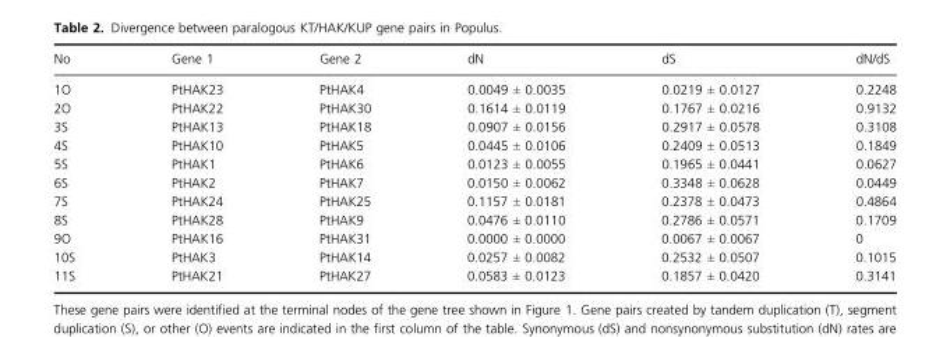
<table><thead><tr><td>No</td><td>Gene 1</td><td>Gene 2</td><td>dN</td><td>dS</td><td>dN/dS</td></tr></thead><tbody><tr><td>1O</td><td>PtHAK23</td><td>PtHAK4</td><td>0.0049 ± 0.0035</td><td>0.0219 ± 0.0127</td><td>0.2248</td></tr><tr><td>2O</td><td>PtHAK22</td><td>PtHAK30</td><td>0.1614 ± 0.0119</td><td>0.1767 ± 0.0216</td><td>0.9132</td></tr><tr><td>3S</td><td>PtHAK13</td><td>PtHAK18</td><td>0.0907 ± 0.0156</td><td>0.2917 ± 0.0578</td><td>0.3108</td></tr><tr><td>4S</td><td>PtHAK10</td><td>PtHAK5</td><td>0.0445 ± 0.0106</td><td>0.2409 ± 0.0513</td><td>0.1849</td></tr><tr><td>5S</td><td>PtHAK1</td><td>PtHAK6</td><td>0.0123 ± 0.0055</td><td>0.1965 ± 0.0441</td><td>0.0627</td></tr><tr><td>6S</td><td>PtHAK2</td><td>PtHAK7</td><td>0.0150 ± 0.0062</td><td>0.3348 ± 0.0628</td><td>0.0449</td></tr><tr><td>7S</td><td>PtHAK24</td><td>PtHAK25</td><td>0.1157 ± 0.0181</td><td>0.2378 ± 0.0473</td><td>0.4864</td></tr><tr><td>8S</td><td>PtHAK28</td><td>PtHAK9</td><td>0.0476 ± 0.0110</td><td>0.2786 ± 0.0571</td><td>0.1709</td></tr><tr><td>9O</td><td>PtHAK16</td><td>PtHAK31</td><td>0.0000 ± 0.0000</td><td>0.0067 ± 0.0067</td><td>0</td></tr><tr><td>10S</td><td>PtHAK3</td><td>PtHAK14</td><td>0.0257 ± 0.0082</td><td>0.2532 ± 0.0507</td><td>0.1015</td></tr><tr><td>11S</td><td>PtHAK21</td><td>PtHAK27</td><td>0.0583 ± 0.0123</td><td>0.1857 ± 0.0420</td><td>0.3141</td></tr></tbody></table>